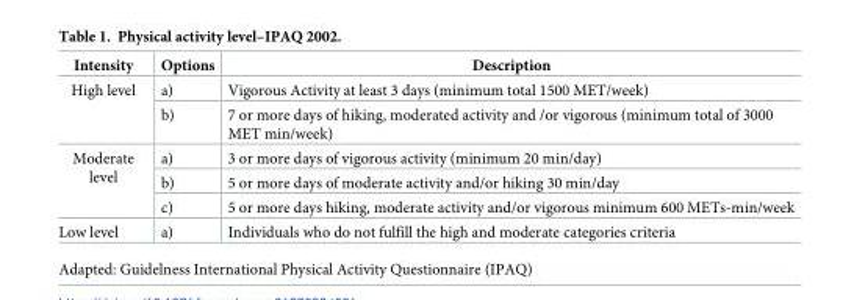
<table><thead><tr><td>Intensity</td><td>Options</td><td>Description</td></tr></thead><tbody><tr><td rowspan="2">High level</td><td>a)</td><td>Vigorous Activity at least 3 days (minimum total 1500 MET/week)</td></tr><tr><td>b)</td><td>7 or more days of hiking, moderated activity and /or vigorous (minimum total of 3000 MET min/week)</td></tr><tr><td rowspan="3">Moderate level</td><td>a)</td><td>3 or more days of vigorous activity (minimum 20 min/day)</td></tr><tr><td>b)</td><td>5 or more days of moderate activity and/or hiking 30 min/day</td></tr><tr><td>c)</td><td>5 or more days hiking, moderate activity and/or vigorous minimum 600 METs-min/week</td></tr><tr><td>Low level</td><td>a)</td><td>Individuals who do not fulfill the high and moderate categories criteria</td></tr></tbody></table>